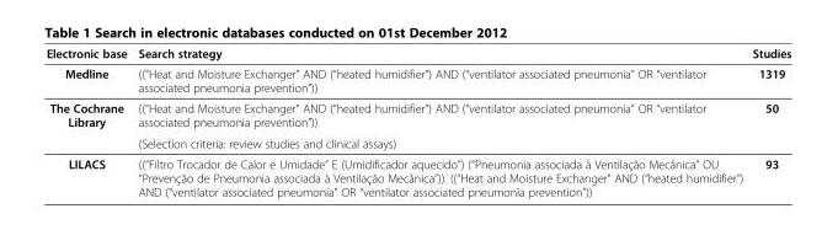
<table><thead><tr><td>Electronic base</td><td>Search strategy</td><td>Studies</td></tr></thead><tbody><tr><td>Medline</td><td>((“Heat and Moisture Exchanger” AND (“heated humidifier”) AND (“ventilator associated pneumonia” OR “ventilator associated pneumonia prevention”))</td><td>1319</td></tr><tr><td rowspan="2">The Cochrane Library</td><td>((“Heat and Moisture Exchanger” AND (“heated humidifier”) AND (“ventilator associated pneumonia” OR “ventilator associated pneumonia prevention”))</td><td>50</td></tr><tr><td>(Selection criteria: review studies and clinical assays)</td><td></td></tr><tr><td>LILACS</td><td>((“Filtro Trocador de Calor e Umidade” E (Umidificador aquecido”) (“Pneumonia associada à Ventilação Mecânica” OU “Prevenção de Pneumonia associada à Ventilação Mecânica”)). ((“Heat and Moisture Exchanger” AND (“heated humidifier”) AND (“ventilator associated pneumonia” OR “ventilator associated pneumonia prevention”))</td><td>93</td></tr></tbody></table>